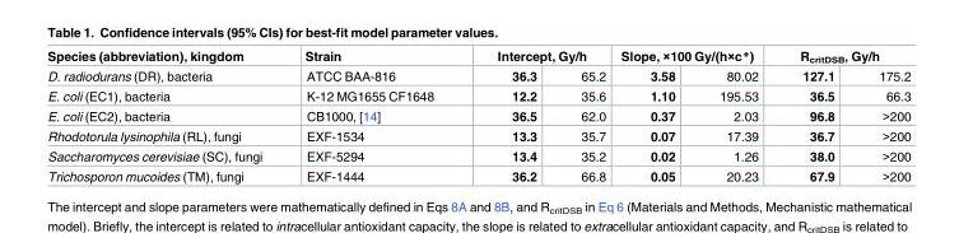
<table><thead><tr><td rowspan="2">Species (abbreviation), kingdom D. radiodurans (DR), bacteria</td><td rowspan="2">Strain ATCC BAA-816</td><td colspan="2">Intercept, Gy/h</td><td colspan="2">Slope, ×100 Gy/(h×c*)</td><td colspan="2">R<sub>critDSB</sub>, Gy/h</td></tr><tr><td>36.3</td><td>65.2</td><td>3.58</td><td>80.02</td><td>127.1</td><td>175.2</td></tr></thead><tbody><tr><td>E. coli (EC1), bacteria</td><td>K-12 MG1655 CF1648</td><td>12.2</td><td>35.6</td><td>1.10</td><td>195.53</td><td>36.5</td><td>66.3</td></tr><tr><td>E. coli (EC2), bacteria</td><td>CB1000, [14]</td><td>36.5</td><td>62.0</td><td>0.37</td><td>2.03</td><td>96.8</td><td>&gt;200</td></tr><tr><td>Rhodotorula lysinophila (RL), fungi</td><td>EXF-1534</td><td>13.3</td><td>35.7</td><td>0.07</td><td>17.39</td><td>36.7</td><td>&gt;200</td></tr><tr><td>Saccharomyces cerevisiae (SC), fungi</td><td>EXF-5294</td><td>13.4</td><td>35.2</td><td>0.02</td><td>1.26</td><td>38.0</td><td>&gt;200</td></tr><tr><td>Trichosporon mucoides (TM), fungi</td><td>EXF-1444</td><td>36.2</td><td>66.8</td><td>0.05</td><td>20.23</td><td>67.9</td><td>&gt;200</td></tr></tbody></table>